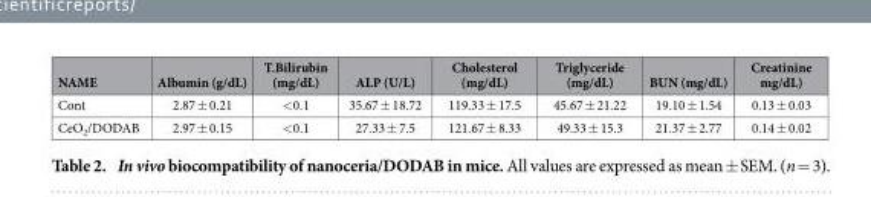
<table><thead><tr><td>NAME</td><td>Albumin (g/dL)</td><td>T.Bilirubin (mg/dL)</td><td>ALP (U/L)</td><td>Cholesterol (mg/dL)</td><td>Triglyceride (mg/dL)</td><td>BUN (mg/dL)</td><td>Creatinine mg/dL)</td></tr></thead><tbody><tr><td>Cont</td><td>2.87 ± 0.21</td><td>&lt; 0.1</td><td>35.67 ± 18.72</td><td>119.33 ± 17.5</td><td>45.67 ± 21.22</td><td>19.10 ± 1.54</td><td>0.13 ± 0.03</td></tr><tr><td>CeO<sub>2</sub>/DODAB</td><td>2.97 ± 0.15</td><td>&lt; 0.1</td><td>27.33 ± 7.5</td><td>121.67 ± 8.33</td><td>49.33 ± 15.3</td><td>21.37 ± 2.77</td><td>0.14 ± 0.02</td></tr></tbody></table>